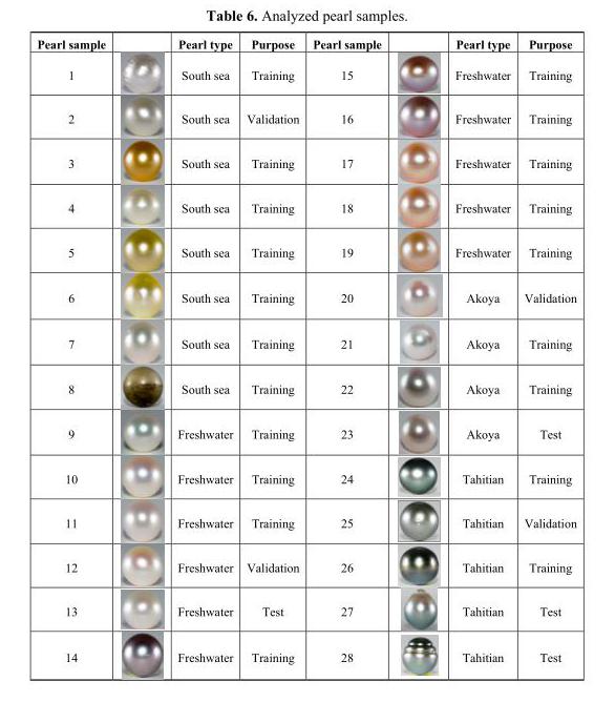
<table><thead><tr><td>Pearl sample</td><td>Pearl type</td><td>Purpose</td><td>Pearl sample</td><td>Pearl type</td><td>Purpose</td></tr></thead><tbody><tr><td>1</td><td>South sea</td><td>Training</td><td>15</td><td>Freshwater</td><td>Training</td></tr><tr><td>2</td><td>South sea</td><td>Validation</td><td>16</td><td>Freshwater</td><td>Training</td></tr><tr><td>3</td><td>South sea</td><td>Training</td><td>17</td><td>Freshwater</td><td>Training</td></tr><tr><td>4</td><td>South sea</td><td>Training</td><td>18</td><td>Freshwater</td><td>Training</td></tr><tr><td>5</td><td>South sea</td><td>Training</td><td>19</td><td>Freshwater</td><td>Training</td></tr><tr><td>6</td><td>South sea</td><td>Training</td><td>20</td><td>Akoya</td><td>Validation</td></tr><tr><td>7</td><td>South sea</td><td>Training</td><td>21</td><td>Akoya</td><td>Training</td></tr><tr><td>8</td><td>South sea</td><td>Training</td><td>22</td><td>Akoya</td><td>Training</td></tr><tr><td>9</td><td>Freshwater</td><td>Training</td><td>23</td><td>Akoya</td><td>Test</td></tr><tr><td>10</td><td>Freshwater</td><td>Training</td><td>24</td><td>Tahitian</td><td>Training</td></tr><tr><td>11</td><td>Freshwater</td><td>Training</td><td>25</td><td>Tahitian</td><td>Validation</td></tr><tr><td>12</td><td>Freshwater</td><td>Validation</td><td>26</td><td>Tahitian</td><td>Training</td></tr><tr><td>13</td><td>Freshwater</td><td>Test</td><td>27</td><td>Tahitian</td><td>Test</td></tr><tr><td>14</td><td>Freshwater</td><td>Training</td><td>28</td><td>Tahitian</td><td>Test</td></tr></tbody></table>